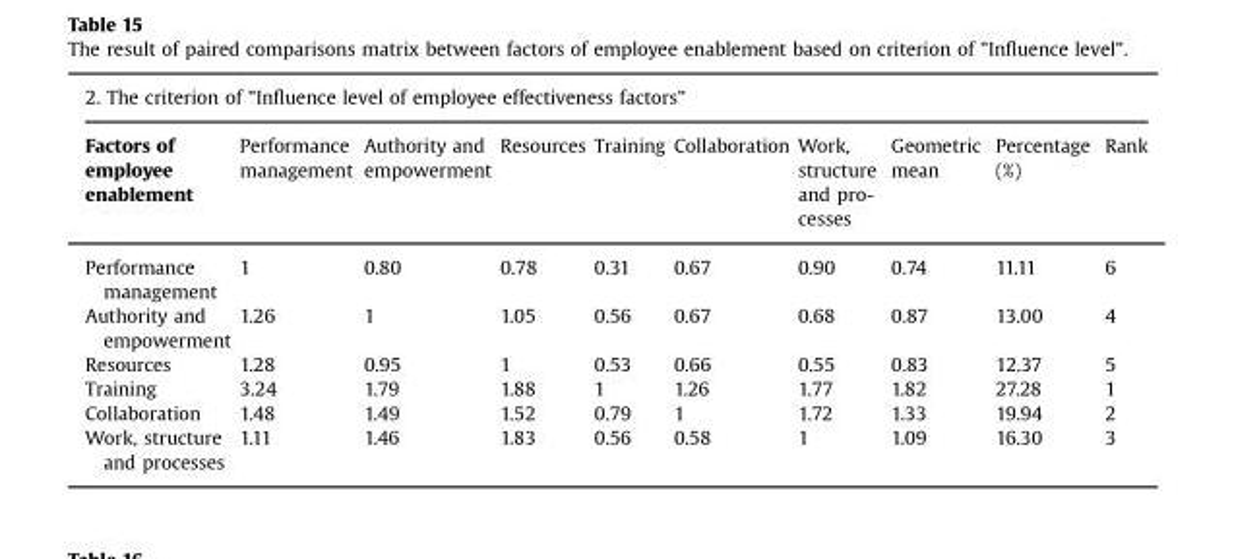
<table><thead><tr><td colspan="10">2. The criterion of &quot;Influence level of employee effectiveness factors&quot;</td></tr><tr><td>Factors of employee enablement</td><td>Performance management</td><td>Authority and empowerment</td><td>Resources</td><td>Training</td><td>Collaboration</td><td>Work, structure and pro- cesses</td><td>Geometric mean</td><td>Percentage (%)</td><td>Rank</td></tr></thead><tbody><tr><td>Performance management</td><td>1</td><td>0.80</td><td>0.78</td><td>0.31</td><td>0.67</td><td>0.90</td><td>0.74</td><td>11.11</td><td>6</td></tr><tr><td>Authority and empowerment</td><td>1.26</td><td>1</td><td>1.05</td><td>0.56</td><td>0.67</td><td>0.68</td><td>0.87</td><td>13.00</td><td>4</td></tr><tr><td>Resources</td><td>1.28</td><td>0.95</td><td>1</td><td>0.53</td><td>0.66</td><td>0.55</td><td>0.83</td><td>12.37</td><td>5</td></tr><tr><td>Training</td><td>3.24</td><td>1.79</td><td>1.88</td><td>1</td><td>1.26</td><td>1.77</td><td>1.82</td><td>27.28</td><td>1</td></tr><tr><td>Collaboration</td><td>1.48</td><td>1.49</td><td>1.52</td><td>0.79</td><td>1</td><td>1.72</td><td>1.33</td><td>19.94</td><td>2</td></tr><tr><td>Work, structure and processes</td><td>1.11</td><td>1.46</td><td>1.83</td><td>0.56</td><td>0.58</td><td>1</td><td>1.09</td><td>16.30</td><td>3</td></tr></tbody></table>